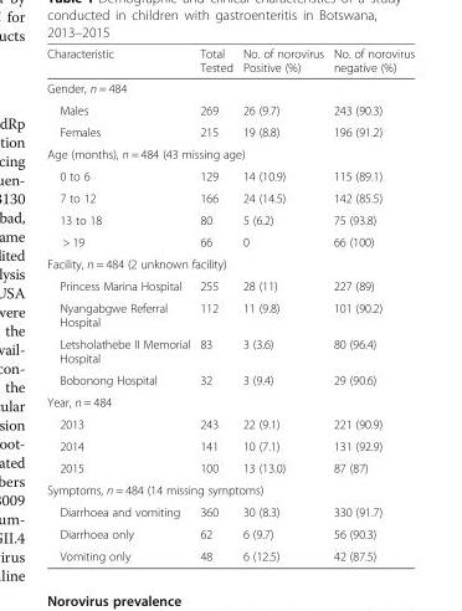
<table><thead><tr><td>Characteristic</td><td>Total Tested</td><td>No. of norovirus Positive (%)</td><td>No. of norovirus negative (%)</td></tr></thead><tbody><tr><td colspan="4">Gender, n = 484</td></tr><tr><td>Males</td><td>269</td><td>26 (9.7)</td><td>243 (90.3)</td></tr><tr><td>Females</td><td>215</td><td>19 (8.8)</td><td>196 (91.2)</td></tr><tr><td colspan="4">Age (months), n = 484 (43 missing age)</td></tr><tr><td>0 to 6</td><td>129</td><td>14 (10.9)</td><td>115 (89.1)</td></tr><tr><td>7 to 12</td><td>166</td><td>24 (14.5)</td><td>142 (85.5)</td></tr><tr><td>13 to 18</td><td>80</td><td>5 (6.2)</td><td>75 (93.8)</td></tr><tr><td>&gt; 19</td><td>66</td><td>0</td><td>66 (100)</td></tr><tr><td colspan="4">Facility, n = 484 (2 unknown facility)</td></tr><tr><td>Princess Marina Hospital</td><td>255</td><td>28 (11)</td><td>227 (89)</td></tr><tr><td>Nyangabgwe Referral Hospital</td><td>112</td><td>11 (9.8)</td><td>101 (90.2)</td></tr><tr><td>Letsholathebe II Memorial Hospital</td><td>83</td><td>3 (3.6)</td><td>80 (96.4)</td></tr><tr><td>Bobonong Hospital</td><td>32</td><td>3 (9.4)</td><td>29 (90.6)</td></tr><tr><td colspan="4">Year, n = 484</td></tr><tr><td>2013</td><td>243</td><td>22 (9.1)</td><td>221 (90.9)</td></tr><tr><td>2014</td><td>141</td><td>10 (7.1)</td><td>131 (92.9)</td></tr><tr><td>2015</td><td>100</td><td>13 (13.0)</td><td>87 (87)</td></tr><tr><td colspan="4">Symptoms, n = 484 (14 missing symptoms)</td></tr><tr><td>Diarrhoea and vomiting</td><td>360</td><td>30 (8.3)</td><td>330 (91.7)</td></tr><tr><td>Diarrhoea only</td><td>62</td><td>6 (9.7)</td><td>56 (90.3)</td></tr><tr><td>Vomiting only</td><td>48</td><td>6 (12.5)</td><td>42 (87.5)</td></tr></tbody></table>